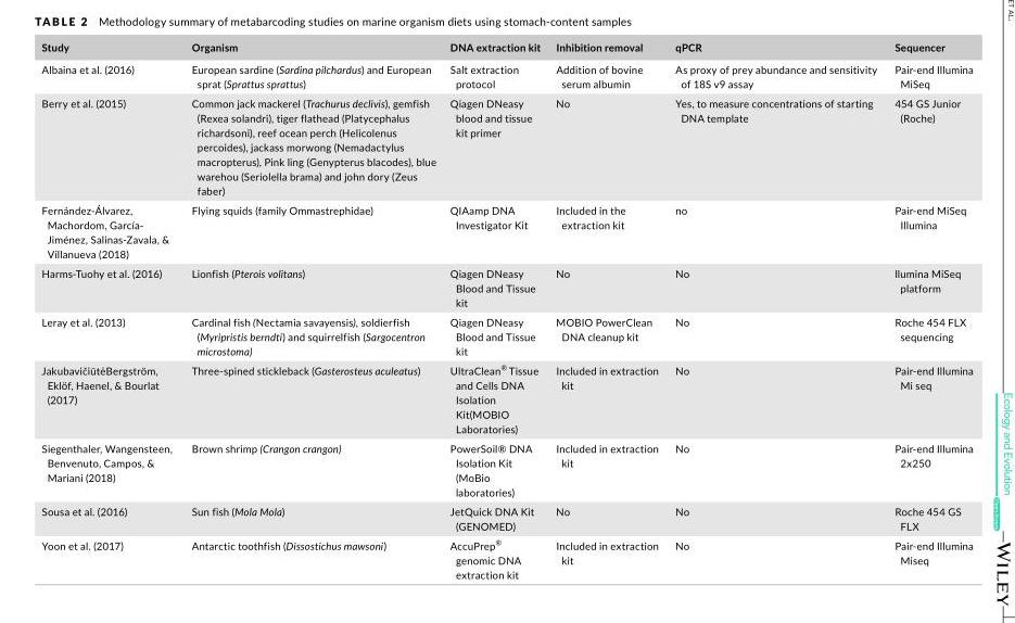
<table><thead><tr><td>Study</td><td>Organism</td><td>DNA extraction kit</td><td>Inhibition removal</td><td>qPCR</td><td>Sequencer</td></tr></thead><tbody><tr><td>Albaina et al. (2016)</td><td>European sardine (Sardina pilchardus) and European sprat (Sprattus sprattus)</td><td>Salt extraction protocol</td><td>Addition of bovine serum albumin</td><td>As proxy of prey abundance and sensitivity of 18S v9 assay</td><td>Pair‐end Illumina MiSeq</td></tr><tr><td>Berry et al. (2015)</td><td>Common jack mackerel (Trachurus declivis), gemfish (Rexea solandri), tiger flathead (Platycephalus richardsoni), reef ocean perch (Helicolenus percoides), jackass morwong (Nemadactylus macropterus), Pink ling (Genypterus blacodes), blue warehou (Seriolella brama) and john dory (Zeus faber)</td><td>Qiagen DNeasy blood and tissue kit primer</td><td>No</td><td>Yes, to measure concentrations of starting DNA template</td><td>454 GS Junior (Roche)</td></tr><tr><td>Fernández‐Álvarez, Machordom, García‐ Jiménez, Salinas‐Zavala, &amp; Villanueva (2018)</td><td>Flying squids (family Ommastrephidae)</td><td>QIAamp DNA Investigator Kit</td><td>Included in the extraction kit</td><td>no</td><td>Pair‐end MiSeq Illumina</td></tr><tr><td>Harms‐Tuohy et al. (2016)</td><td>Lionfish (Pterois volitans)</td><td>Qiagen DNeasy Blood and Tissue kit</td><td>No</td><td>No</td><td>llumina MiSeq platform</td></tr><tr><td>Leray et al. (2013)</td><td>Cardinal fish (Nectamia savayensis), soldierfish (Myripristis berndti) and squirrelfish (Sargocentron microstoma)</td><td>Qiagen DNeasy Blood and Tissue kit</td><td>MOBIO PowerClean DNA cleanup kit</td><td>No</td><td>Roche 454 FLX sequencing</td></tr><tr><td>JakubavičiūtėBergström, Eklöf, Haenel, &amp; Bourlat (2017)</td><td>Three‐spined stickleback (Gasterosteus aculeatus)</td><td>UltraClean<sup>®</sup> Tissue and Cells DNA Isolation Kit(MOBIO Laboratories)</td><td>Included in extraction kit</td><td>No</td><td>Pair‐end Illumina Mi seq</td></tr><tr><td>Siegenthaler, Wangensteen, Benvenuto, Campos, &amp; Mariani (2018)</td><td>Brown shrimp (Crangon crangon)</td><td>PowerSoil® DNA Isolation Kit (MoBio laboratories)</td><td>Included in extraction kit</td><td>No</td><td>Pair‐end Illumina 2x250</td></tr><tr><td>Sousa et al. (2016)</td><td>Sun fish (Mola Mola)</td><td>JetQuick DNA Kit (GENOMED)</td><td>No</td><td>No</td><td>Roche 454 GS FLX</td></tr><tr><td>Yoon et al. (2017)</td><td>Antarctic toothfish (Dissostichus mawsoni)</td><td>AccuPrep<sup>®</sup> genomic DNA extraction kit</td><td>Included in extraction kit</td><td>No</td><td>Pair‐end Illumina Miseq</td></tr></tbody></table>